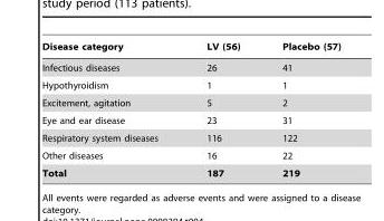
<table><thead><tr><td>Disease category</td><td>LV (56)</td><td>Placebo (57)</td></tr></thead><tbody><tr><td>Infectious diseases</td><td>26</td><td>41</td></tr><tr><td>Hypothyroidism</td><td>1</td><td>1</td></tr><tr><td>Excitement, agitation</td><td>5</td><td>2</td></tr><tr><td>Eye and ear disease</td><td>23</td><td>31</td></tr><tr><td>Respiratory system diseases</td><td>116</td><td>122</td></tr><tr><td>Other diseases</td><td>16</td><td>22</td></tr><tr><td>Total</td><td>187</td><td>219</td></tr></tbody></table>